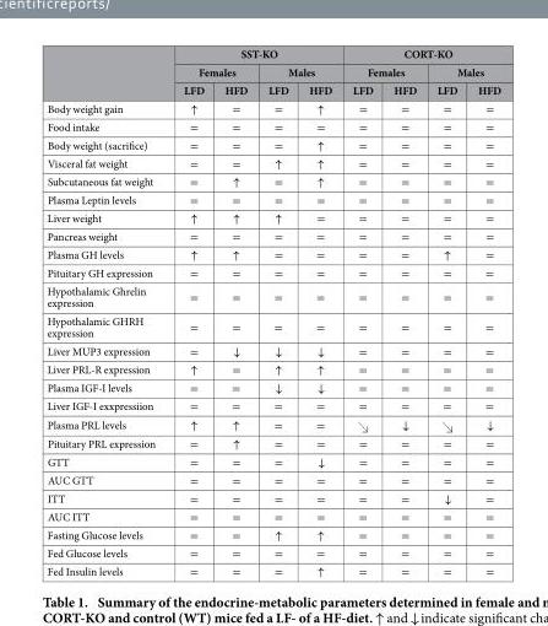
<table><thead><tr><td rowspan="3"></td><td colspan="4">SST-KO</td><td colspan="4">CORT-KO</td></tr><tr><td colspan="2">Females</td><td colspan="2">Males</td><td colspan="2">Females</td><td colspan="2">Males</td></tr><tr><td>LFD</td><td>HFD</td><td>LFD</td><td>HFD</td><td>LFD</td><td>HFD</td><td>LFD</td><td>HFD</td></tr></thead><tbody><tr><td>Body weight gain</td><td>↑</td><td>=</td><td>=</td><td>↑</td><td>=</td><td>=</td><td>=</td><td>=</td></tr><tr><td>Food intake</td><td>=</td><td>=</td><td>=</td><td>=</td><td>=</td><td>=</td><td>=</td><td>=</td></tr><tr><td>Body weight (sacrifice)</td><td>=</td><td>=</td><td>=</td><td>↑</td><td>=</td><td>=</td><td>=</td><td>=</td></tr><tr><td>Visceral fat weight</td><td>=</td><td>=</td><td>↑</td><td>↑</td><td>=</td><td>=</td><td>=</td><td>=</td></tr><tr><td>Subcutaneous fat weight</td><td>=</td><td>↑</td><td>=</td><td>↑</td><td>=</td><td>=</td><td>=</td><td>=</td></tr><tr><td>Plasma Leptin levels</td><td>=</td><td>=</td><td>=</td><td>=</td><td>=</td><td>=</td><td>=</td><td>=</td></tr><tr><td>Liver weight</td><td>↑</td><td>↑</td><td>↑</td><td>=</td><td>=</td><td>=</td><td>=</td><td>=</td></tr><tr><td>Pancreas weight</td><td>=</td><td>=</td><td>=</td><td>=</td><td>=</td><td>=</td><td>=</td><td>=</td></tr><tr><td>Plasma GH levels</td><td>↑</td><td>↑</td><td>=</td><td>=</td><td>=</td><td>=</td><td>↑</td><td>=</td></tr><tr><td>Pituitary GH expression</td><td>=</td><td>=</td><td>=</td><td>=</td><td>=</td><td>=</td><td>=</td><td>=</td></tr><tr><td>Hypothalamic Ghrelin expression</td><td>=</td><td>=</td><td>=</td><td>=</td><td>=</td><td>=</td><td>=</td><td>=</td></tr><tr><td>Hypothalamic GHRH expression</td><td>=</td><td>=</td><td>=</td><td>=</td><td>=</td><td>=</td><td>=</td><td>=</td></tr><tr><td>Liver MUP3 expression</td><td>=</td><td>↓</td><td>↓</td><td>↓</td><td>=</td><td>=</td><td>=</td><td>=</td></tr><tr><td>Liver PRL-R expression</td><td>↑</td><td>=</td><td>↑</td><td>↑</td><td>=</td><td>=</td><td>=</td><td>=</td></tr><tr><td>Plasma IGF-I levels</td><td>=</td><td>=</td><td>↓</td><td>↓</td><td>=</td><td>=</td><td>=</td><td>=</td></tr><tr><td>Liver IGF-I exxpressiion</td><td>=</td><td>=</td><td>=</td><td>=</td><td>=</td><td>=</td><td>=</td><td>=</td></tr><tr><td>Plasma PRL levels</td><td>↑</td><td>↑</td><td>=</td><td>=</td><td></td><td>↓</td><td></td><td>↓</td></tr><tr><td>Pituitary PRL expression</td><td>=</td><td>↑</td><td>=</td><td>=</td><td>=</td><td>=</td><td>=</td><td>=</td></tr><tr><td>GTT</td><td>=</td><td>=</td><td>=</td><td>↓</td><td>=</td><td>=</td><td>=</td><td>=</td></tr><tr><td>AUC GTT</td><td>=</td><td>=</td><td>=</td><td>=</td><td>=</td><td>=</td><td>=</td><td>=</td></tr><tr><td>ITT</td><td>=</td><td>=</td><td>=</td><td>=</td><td>=</td><td>=</td><td>↓</td><td>=</td></tr><tr><td>AUC ITT</td><td>=</td><td>=</td><td>=</td><td>=</td><td>=</td><td>=</td><td>=</td><td>=</td></tr><tr><td>Fasting Glucose levels</td><td>=</td><td>=</td><td>↑</td><td>↑</td><td>=</td><td>=</td><td>=</td><td>=</td></tr><tr><td>Fed Glucose levels</td><td>=</td><td>=</td><td>=</td><td>=</td><td>=</td><td>=</td><td>=</td><td>=</td></tr><tr><td>Fed Insulin levels</td><td>=</td><td>=</td><td>=</td><td>↑</td><td>=</td><td>=</td><td>=</td><td>=</td></tr></tbody></table>